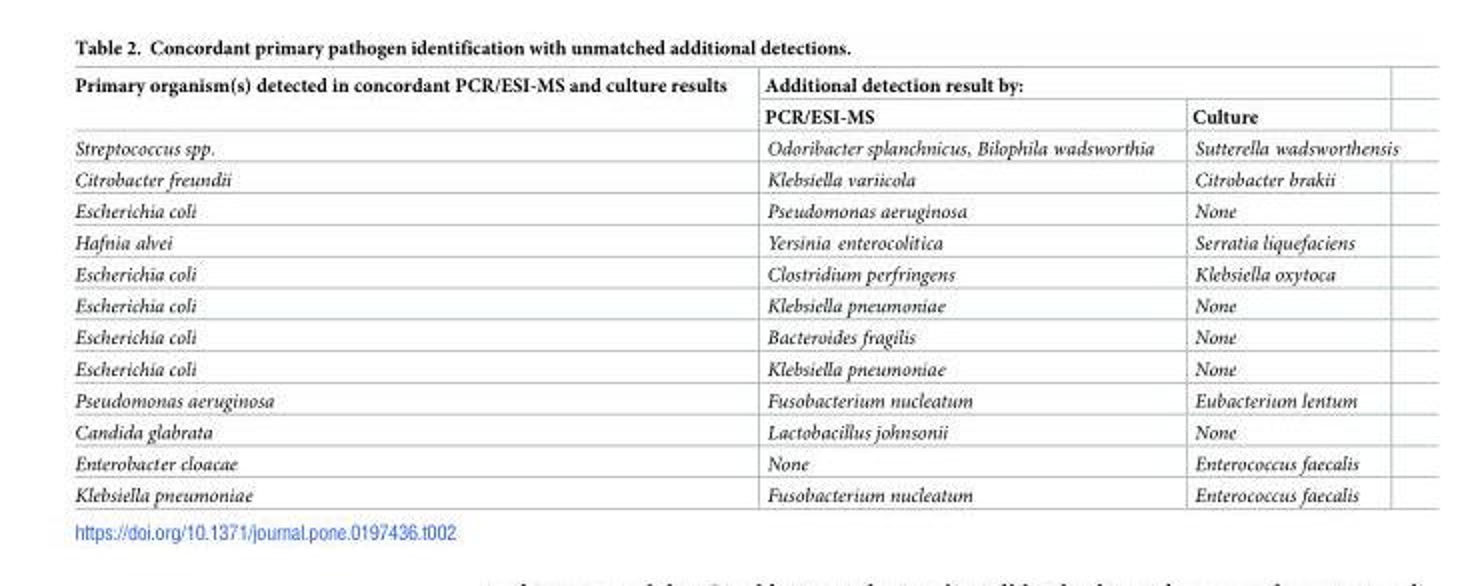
<table><thead><tr><td rowspan="2">Primary organism(s) detected in concordant PCR/ESI-MS and culture results</td><td colspan="2">Additional detection result by:</td></tr><tr><td>PCR/ESI-MS</td><td>Culture</td></tr></thead><tbody><tr><td>Streptococcus spp.</td><td>Odoribacter splanchnicus, Bilophila wadsworthia</td><td>Sutterella wadsworthensis</td></tr><tr><td>Citrobacter freundii</td><td>Klebsiella variicola</td><td>Citrobacter brakii</td></tr><tr><td>Escherichia coli</td><td>Pseudomonas aeruginosa</td><td>None</td></tr><tr><td>Hafnia alvei</td><td>Yersinia enterocolitica</td><td>Serratia liquefaciens</td></tr><tr><td>Escherichia coli</td><td>Clostridium perfringens</td><td>Klebsiella oxytoca</td></tr><tr><td>Escherichia coli</td><td>Klebsiella pneumoniae</td><td>None</td></tr><tr><td>Escherichia coli</td><td>Bacteroides fragilis</td><td>None</td></tr><tr><td>Escherichia coli</td><td>Klebsiella pneumoniae</td><td>None</td></tr><tr><td>Pseudomonas aeruginosa</td><td>Fusobacterium nucleatum</td><td>Eubacterium lentum</td></tr><tr><td>Candida glabrata</td><td>Lactobacillus johnsonii</td><td>None</td></tr><tr><td>Enterobacter cloacae</td><td>None</td><td>Enterococcus faecalis</td></tr><tr><td>Klebsiella pneumoniae</td><td>Fusobacterium nucleatum</td><td>Enterococcus faecalis</td></tr></tbody></table>